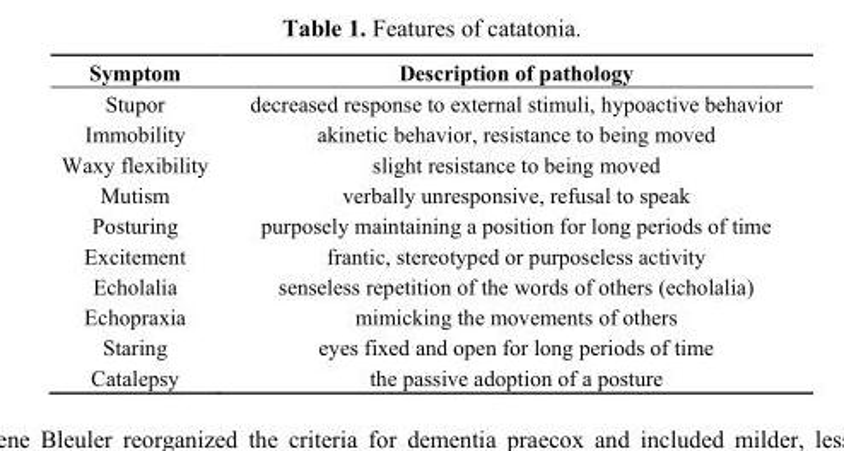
<table><thead><tr><td>Symptom</td><td>Description of pathology</td></tr></thead><tbody><tr><td>Stupor</td><td>decreased response to external stimuli, hypoactive behavior</td></tr><tr><td>Immobility</td><td>akinetic behavior, resistance to being moved</td></tr><tr><td>Waxy flexibility</td><td>slight resistance to being moved</td></tr><tr><td>Mutism</td><td>verbally unresponsive, refusal to speak</td></tr><tr><td>Posturing</td><td>purposely maintaining a position for long periods of time</td></tr><tr><td>Excitement</td><td>frantic, stereotyped or purposeless activity</td></tr><tr><td>Echolalia</td><td>senseless repetition of the words of others (echolalia)</td></tr><tr><td>Echopraxia</td><td>mimicking the movements of others</td></tr><tr><td>Staring</td><td>eyes fixed and open for long periods of time</td></tr><tr><td>Catalepsy</td><td>the passive adoption of a posture</td></tr></tbody></table>